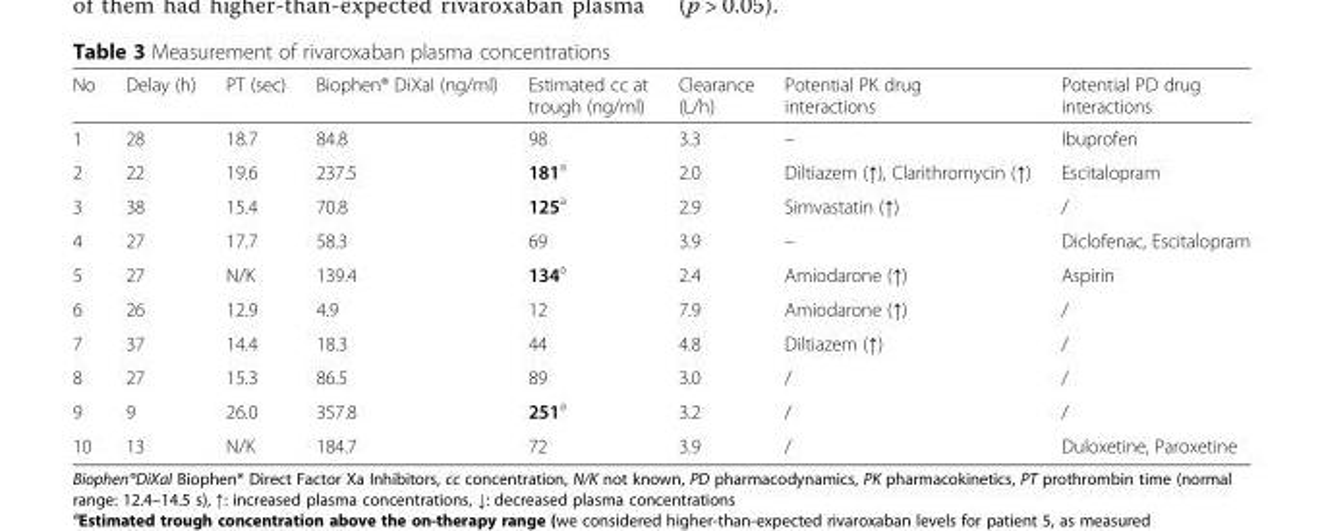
<table><thead><tr><td>No</td><td>Delay (h)</td><td>PT (sec)</td><td>Biophen® DiXaI (ng/ml)</td><td>Estimated cc at trough (ng/ml)</td><td>Clearance (L/h)</td><td>Potential PK drug interactions</td><td>Potential PD drug interactions</td></tr></thead><tbody><tr><td>1</td><td>28</td><td>18.7</td><td>84.8</td><td>98</td><td>3.3</td><td>–</td><td>Ibuprofen</td></tr><tr><td>2</td><td>22</td><td>19.6</td><td>237.5</td><td>181<sup>a</sup></td><td>2.0</td><td>Diltiazem (↑), Clarithromycin (↑)</td><td>Escitalopram</td></tr><tr><td>3</td><td>38</td><td>15.4</td><td>70.8</td><td>125<sup>a</sup></td><td>2.9</td><td>Simvastatin (↑)</td><td>/</td></tr><tr><td>4</td><td>27</td><td>17.7</td><td>58.3</td><td>69</td><td>3.9</td><td>–</td><td>Diclofenac, Escitalopram</td></tr><tr><td>5</td><td>27</td><td>N/K</td><td>139.4</td><td>134<sup>a</sup></td><td>2.4</td><td>Amiodarone (↑)</td><td>Aspirin</td></tr><tr><td>6</td><td>26</td><td>12.9</td><td>4.9</td><td>12</td><td>7.9</td><td>Amiodarone (↑)</td><td>/</td></tr><tr><td>7</td><td>37</td><td>14.4</td><td>18.3</td><td>44</td><td>4.8</td><td>Diltiazem (↑)</td><td>/</td></tr><tr><td>8</td><td>27</td><td>15.3</td><td>86.5</td><td>89</td><td>3.0</td><td>/</td><td>/</td></tr><tr><td>9</td><td>9</td><td>26.0</td><td>357.8</td><td>251<sup>a</sup></td><td>3.2</td><td>/</td><td>/</td></tr><tr><td>10</td><td>13</td><td>N/K</td><td>184.7</td><td>72</td><td>3.9</td><td>/</td><td>Duloxetine, Paroxetine</td></tr></tbody></table>